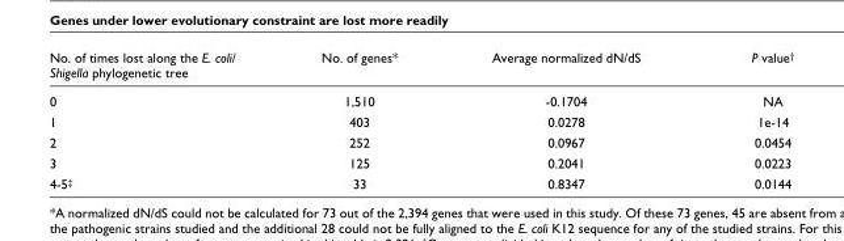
<table><thead><tr><td>No. of times lost along the E. coli/ Shigella phylogenetic tree</td><td>No. of genes*</td><td>Average normalized dN/dS</td><td>P value<sup>†</sup></td></tr></thead><tbody><tr><td>0</td><td>1,510</td><td>-0.1704</td><td>NA</td></tr><tr><td>1</td><td>403</td><td>0.0278</td><td>1e-14</td></tr><tr><td>2</td><td>252</td><td>0.0967</td><td>0.0454</td></tr><tr><td>3</td><td>125</td><td>0.2041</td><td>0.0223</td></tr><tr><td>4-5<sup>‡</sup></td><td>33</td><td>0.8347</td><td>0.0144</td></tr></tbody></table>